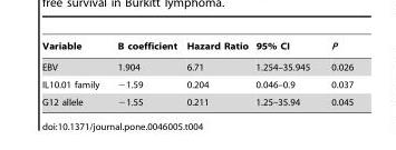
<table><thead><tr><td>Variable</td><td>B coefficient</td><td>Hazard Ratio</td><td>95% CI</td><td>P</td></tr></thead><tbody><tr><td>EBV</td><td>1.904</td><td>6.71</td><td>1.254–35.945</td><td>0.026</td></tr><tr><td>IL10.01 family</td><td>−1.59</td><td>0.204</td><td>0.046–0.9</td><td>0.037</td></tr><tr><td>G12 allele</td><td>−1.55</td><td>0.211</td><td>1.25–35.94</td><td>0.045</td></tr></tbody></table>